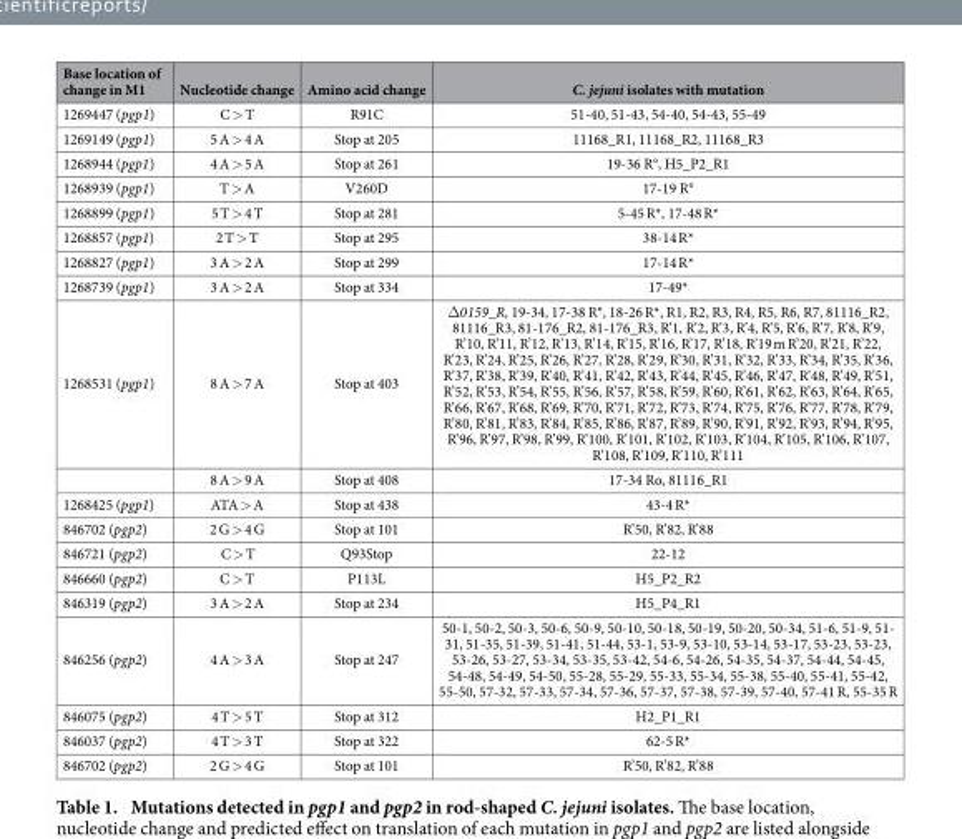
<table><thead><tr><td>Base location of change in M1</td><td>Nucleotide change</td><td>Amino acid change</td><td>C. jejuni isolates with mutation</td></tr></thead><tbody><tr><td>1269447 (pgp1)</td><td>C &gt; T</td><td>R91C</td><td>51-40, 51-43, 54-40, 54-43, 55-49</td></tr><tr><td>1269149 (pgp1)</td><td>5 A &gt; 4 A</td><td>Stop at 205</td><td>11168_R1, 11168_R2, 11168_R3</td></tr><tr><td>1268944 (pgp1)</td><td>4 A &gt; 5 A</td><td>Stop at 261</td><td>19-36 R°, H5_P2_R1</td></tr><tr><td>1268939 (pgp1)</td><td>T &gt; A</td><td>V260D</td><td>17-19 R°</td></tr><tr><td>1268899 (pgp1)</td><td>5 T &gt; 4 T</td><td>Stop at 281</td><td>5-45 R*, 17-48 R*</td></tr><tr><td>1268857 (pgp1)</td><td>2 T &gt; T</td><td>Stop at 295</td><td>38-14 R*</td></tr><tr><td>1268827 (pgp1)</td><td>3 A &gt; 2 A</td><td>Stop at 299</td><td>17-14 R*</td></tr><tr><td>1268739 (pgp1)</td><td>3 A &gt; 2 A</td><td>Stop at 334</td><td>17-49*</td></tr><tr><td rowspan="2">1268531 (pgp1)</td><td>8 A &gt; 7 A</td><td>Stop at 403</td><td>Δ 0159_R, 19-34, 17-38 R°, 18-26 R*, R1, R2, R3, R4, R5, R6, R7, 81116_R2, 81116_R3, 81-176_R2, 81-176_R3, R’1, R’2, R’3, R’4, R’5, R’6, R’7, R’8, R’9, R’10, R’11, R’12, R’13, R’14, R’15, R’16, R’17, R’18, R’19 m R’20, R’21, R’22, R’23, R’24, R’25, R’26, R’27, R’28, R’29, R’30, R’31, R’32, R’33, R’34, R’35, R’36, R’37, R’38, R’39, R’40, R’41, R’42, R’43, R’44, R’45, R’46, R’47, R’48, R’49, R’51, R’52, R’53, R’54, R’55, R’56, R’57, R’58, R’59, R’60, R’61, R’62, R’63, R’64, R’65, R’66, R’67, R’68, R’69, R’70, R’71, R’72, R’73, R’74, R’75, R’76, R’77, R’78, R’79, R’80, R’81, R’83, R’84, R’85, R’86, R’87, R’89, R’90, R’91, R’92, R’93, R’94, R’95, R’96, R’97, R’98, R’99, R’100, R’101, R’102, R’103, R’104, R’105, R’106, R’107, R’108, R’109, R’110, R’111</td></tr><tr><td>8 A &gt; 9 A</td><td>Stop at 408</td><td>17-34 Ro, 81116_R1</td></tr><tr><td>1268425 (pgp1)</td><td>ATA &gt; A</td><td>Stop at 438</td><td>43-4 R*</td></tr><tr><td>846702 (pgp2)</td><td>2 G &gt; 4 G</td><td>Stop at 101</td><td>R’50, R’82, R’88</td></tr><tr><td>846721 (pgp2)</td><td>C &gt; T</td><td>Q93Stop</td><td>22-12</td></tr><tr><td>846660 (pgp2)</td><td>C &gt; T</td><td>P113L</td><td>H5_P2_R2</td></tr><tr><td>846319 (pgp2)</td><td>3 A &gt; 2 A</td><td>Stop at 234</td><td>H5_P4_R1</td></tr><tr><td>846256 (pgp2)</td><td>4 A &gt; 3 A</td><td>Stop at 247</td><td>50-1, 50-2, 50-3, 50-6, 50-9, 50-10, 50-18, 50-19, 50-20, 50-34, 51-6, 51-9, 51- 31, 51-35, 51-39, 51-41, 51-44, 53-1, 53-9, 53-10, 53-14, 53-17, 53-23, 53-23, 53-26, 53-27, 53-34, 53-35, 53-42, 54-6, 54-26, 54-35, 54-37, 54-44, 54-45, 54-48, 54-49, 54-50, 55-28, 55-29, 55-33, 55-34, 55-38, 55-40, 55-41, 55-42, 55-50, 57-32, 57-33, 57-34, 57-36, 57-37, 57-38, 57-39, 57-40, 57-41 R, 55-35 R</td></tr><tr><td>846075 (pgp2)</td><td>4 T &gt; 5 T</td><td>Stop at 312</td><td>H2_P1_R1</td></tr><tr><td>846037 (pgp2)</td><td>4 T &gt; 3 T</td><td>Stop at 322</td><td>62-5 R*</td></tr><tr><td>846702 (pgp2)</td><td>2 G &gt; 4 G</td><td>Stop at 101</td><td>R’50, R’82, R’88</td></tr></tbody></table>